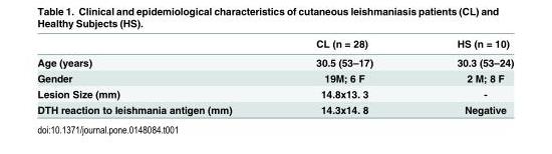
<table><thead><tr><td></td><td>CL (n = 28)</td><td>HS (n = 10)</td></tr></thead><tbody><tr><td>Age (years)</td><td>30.5 (53–17)</td><td>30.3 (53–24)</td></tr><tr><td>Gender</td><td>19M; 6 F</td><td>2 M; 8 F</td></tr><tr><td>Lesion Size (mm)</td><td>14.8x13. 3</td><td>-</td></tr><tr><td>DTH reaction to leishmania antigen (mm)</td><td>14.3x14. 8</td><td>Negative</td></tr></tbody></table>